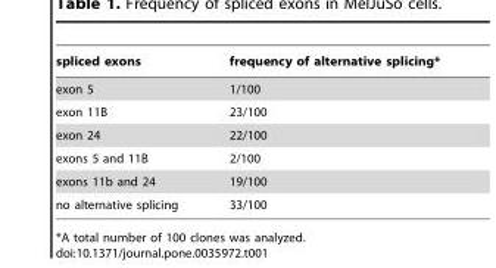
<table><thead><tr><td>spliced exons</td><td>frequency of alternative splicing*</td></tr></thead><tbody><tr><td>exon 5</td><td>1/100</td></tr><tr><td>exon 11B</td><td>23/100</td></tr><tr><td>exon 24</td><td>22/100</td></tr><tr><td>exons 5 and 11B</td><td>2/100</td></tr><tr><td>exons 11b and 24</td><td>19/100</td></tr><tr><td>no alternative splicing</td><td>33/100</td></tr></tbody></table>